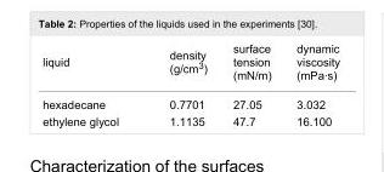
<table><tbody><tr><td>liquid</td><td>density (g/cm<sup>3</sup>)</td><td>surface tension (mN/m)</td><td>dynamic viscosity (mPa·s)</td></tr><tr><td>hexadecane</td><td>0.7701</td><td>27.05</td><td>3.032</td></tr><tr><td>ethylene glycol</td><td>1.1135</td><td>47.7</td><td>16.100</td></tr></tbody></table>